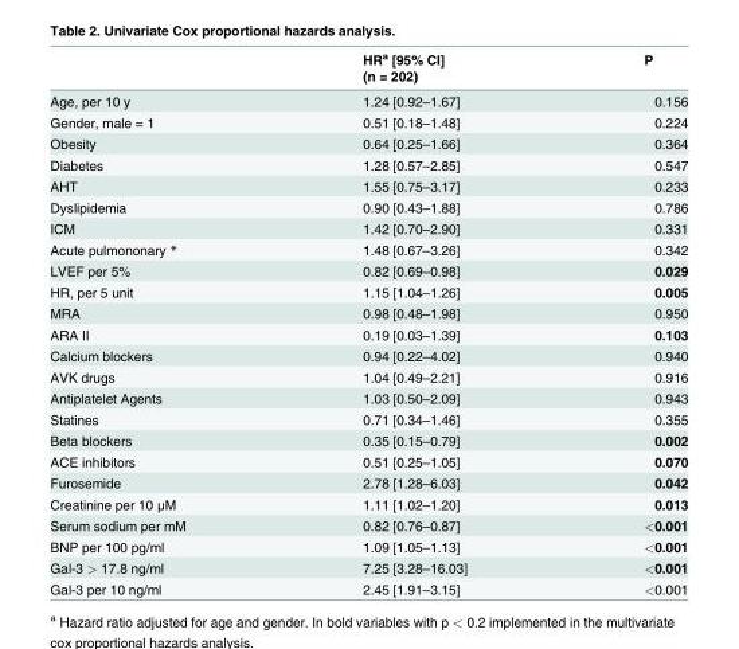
<table><thead><tr><td rowspan="2"></td><td rowspan="2">HR<sup>a</sup> [95% CI] (n = 202)</td><td rowspan="2">P</td></tr><tr></tr></thead><tbody><tr><td>Age, per 10 y</td><td>1.24 [0.92–1.67]</td><td>0.156</td></tr><tr><td>Gender, male = 1</td><td>0.51 [0.18–1.48]</td><td>0.224</td></tr><tr><td>Obesity</td><td>0.64 [0.25–1.66]</td><td>0.364</td></tr><tr><td>Diabetes</td><td>1.28 [0.57–2.85]</td><td>0.547</td></tr><tr><td>AHT</td><td>1.55 [0.75–3.17]</td><td>0.233</td></tr><tr><td>Dyslipidemia</td><td>0.90 [0.43–1.88]</td><td>0.786</td></tr><tr><td>ICM</td><td>1.42 [0.70–2.90]</td><td>0.331</td></tr><tr><td>Acute pulmononary *</td><td>1.48 [0.67–3.26]</td><td>0.342</td></tr><tr><td>LVEF per 5%</td><td>0.82 [0.69–0.98]</td><td>0.029</td></tr><tr><td>HR, per 5 unit</td><td>1.15 [1.04–1.26]</td><td>0.005</td></tr><tr><td>MRA</td><td>0.98 [0.48–1.98]</td><td>0.950</td></tr><tr><td>ARA II</td><td>0.19 [0.03–1.39]</td><td>0.103</td></tr><tr><td>Calcium blockers</td><td>0.94 [0.22–4.02]</td><td>0.940</td></tr><tr><td>AVK drugs</td><td>1.04 [0.49–2.21]</td><td>0.916</td></tr><tr><td>Antiplatelet Agents</td><td>1.03 [0.50–2.09]</td><td>0.943</td></tr><tr><td>Statines</td><td>0.71 [0.34–1.46]</td><td>0.355</td></tr><tr><td>Beta blockers</td><td>0.35 [0.15–0.79]</td><td>0.002</td></tr><tr><td>ACE inhibitors</td><td>0.51 [0.25–1.05]</td><td>0.070</td></tr><tr><td>Furosemide</td><td>2.78 [1.28–6.03]</td><td>0.042</td></tr><tr><td>Creatinine per 10 μM</td><td>1.11 [1.02–1.20]</td><td>0.013</td></tr><tr><td>Serum sodium per mM</td><td>0.82 [0.76–0.87]</td><td>&lt;0.001</td></tr><tr><td>BNP per 100 pg/ml</td><td>1.09 [1.05–1.13]</td><td>&lt;0.001</td></tr><tr><td>Gal-3 &gt; 17.8 ng/ml</td><td>7.25 [3.28–16.03]</td><td>&lt;0.001</td></tr><tr><td>Gal-3 per 10 ng/ml</td><td>2.45 [1.91–3.15]</td><td>&lt;0.001</td></tr></tbody></table>